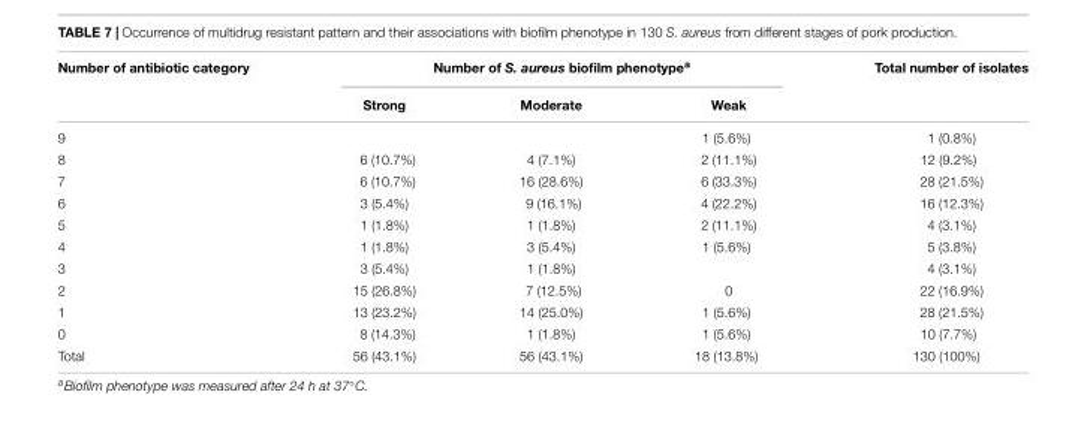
<table><thead><tr><td rowspan="2">Number of antibiotic category</td><td colspan="3">Number of S. aureus biofilm phenotype<sup>a</sup></td><td rowspan="2">Total number of isolates</td></tr><tr><td>Strong</td><td>Moderate</td><td>Weak</td></tr></thead><tbody><tr><td>9</td><td></td><td></td><td>1 (5.6%)</td><td>1 (0.8%)</td></tr><tr><td>8</td><td>6 (10.7%)</td><td>4 (7.1%)</td><td>2 (11.1%)</td><td>12 (9.2%)</td></tr><tr><td>7</td><td>6 (10.7%)</td><td>16 (28.6%)</td><td>6 (33.3%)</td><td>28 (21.5%)</td></tr><tr><td>6</td><td>3 (5.4%)</td><td>9 (16.1%)</td><td>4 (22.2%)</td><td>16 (12.3%)</td></tr><tr><td>5</td><td>1 (1.8%)</td><td>1 (1.8%)</td><td>2 (11.1%)</td><td>4 (3.1%)</td></tr><tr><td>4</td><td>1 (1.8%)</td><td>3 (5.4%)</td><td>1 (5.6%)</td><td>5 (3.8%)</td></tr><tr><td>3</td><td>3 (5.4%)</td><td>1 (1.8%)</td><td></td><td>4 (3.1%)</td></tr><tr><td>2</td><td>15 (26.8%)</td><td>7 (12.5%)</td><td>0</td><td>22 (16.9%)</td></tr><tr><td>1</td><td>13 (23.2%)</td><td>14 (25.0%)</td><td>1 (5.6%)</td><td>28 (21.5%)</td></tr><tr><td>0</td><td>8 (14.3%)</td><td>1 (1.8%)</td><td>1 (5.6%)</td><td>10 (7.7%)</td></tr><tr><td>Total</td><td>56 (43.1%)</td><td>56 (43.1%)</td><td>18 (13.8%)</td><td>130 (100%)</td></tr></tbody></table>